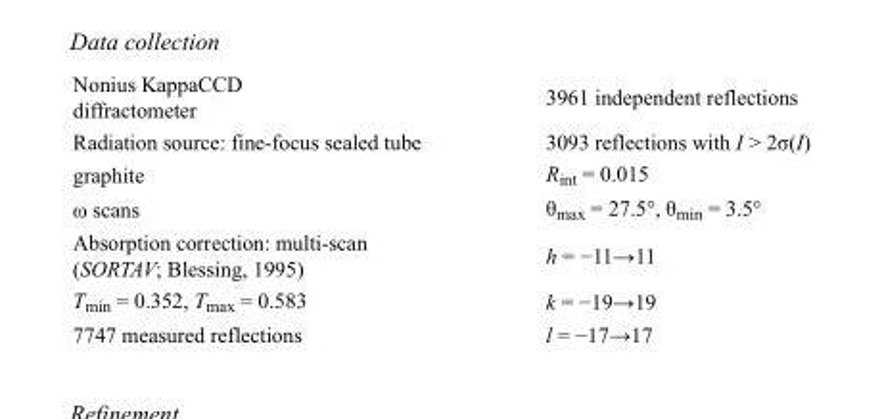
<table><tbody><tr><td>Nonius KappaCCD diffractometer</td><td>3961 independent reflections</td></tr><tr><td>Radiation source: fine-focus sealed tube</td><td>3093 reflections with I &gt; 2σ(I)</td></tr><tr><td>graphite</td><td>R<sub>int</sub> = 0.015</td></tr><tr><td>ω scans</td><td>θ<sub>max</sub> = 27.5°, θ<sub>min</sub> = 3.5°</td></tr><tr><td>Absorption correction: multi-scan (SORTAV; Blessing, 1995)</td><td>h = −11→11</td></tr><tr><td>T<sub>min</sub> = 0.352, T<sub>max</sub> = 0.583</td><td>k = −19→19</td></tr><tr><td>7747 measured reflections</td><td>l = −17→17</td></tr></tbody></table>